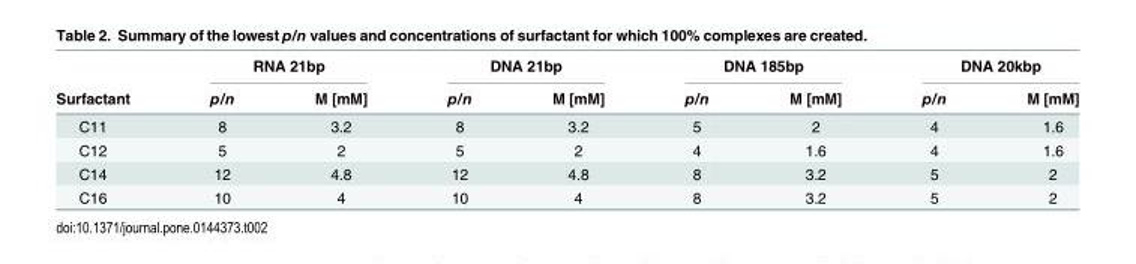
<table><thead><tr><td rowspan="2">Surfactant</td><td colspan="2">RNA 21bp</td><td colspan="2">DNA 21bp</td><td colspan="2">DNA 185bp</td><td colspan="2">DNA 20kbp</td></tr><tr><td>p/n</td><td>M [mM]</td><td>p/n</td><td>M [mM]</td><td>p/n</td><td>M [mM]</td><td>p/n</td><td>M [mM]</td></tr></thead><tbody><tr><td>C11</td><td>8</td><td>3.2</td><td>8</td><td>3.2</td><td>5</td><td>2</td><td>4</td><td>1.6</td></tr><tr><td>C12</td><td>5</td><td>2</td><td>5</td><td>2</td><td>4</td><td>1.6</td><td>4</td><td>1.6</td></tr><tr><td>C14</td><td>12</td><td>4.8</td><td>12</td><td>4.8</td><td>8</td><td>3.2</td><td>5</td><td>2</td></tr><tr><td>C16</td><td>10</td><td>4</td><td>10</td><td>4</td><td>8</td><td>3.2</td><td>5</td><td>2</td></tr></tbody></table>